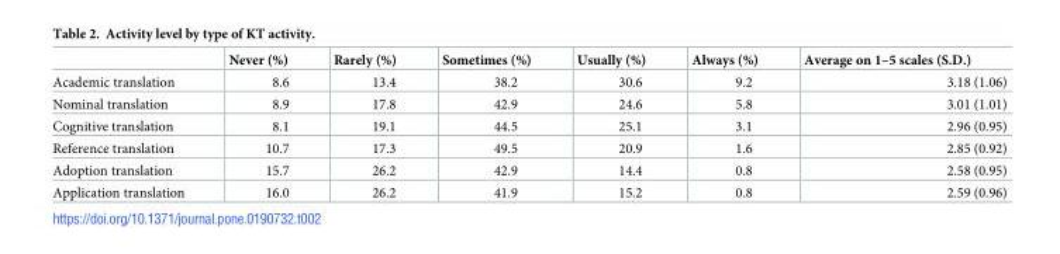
<table><thead><tr><td></td><td>Never (%)</td><td>Rarely (%)</td><td>Sometimes (%)</td><td>Usually (%)</td><td>Always (%)</td><td>Average on 1–5 scales (S.D.)</td></tr></thead><tbody><tr><td>Academic translation</td><td>8.6</td><td>13.4</td><td>38.2</td><td>30.6</td><td>9.2</td><td>3.18 (1.06)</td></tr><tr><td>Nominal translation</td><td>8.9</td><td>17.8</td><td>42.9</td><td>24.6</td><td>5.8</td><td>3.01 (1.01)</td></tr><tr><td>Cognitive translation</td><td>8.1</td><td>19.1</td><td>44.5</td><td>25.1</td><td>3.1</td><td>2.96 (0.95)</td></tr><tr><td>Reference translation</td><td>10.7</td><td>17.3</td><td>49.5</td><td>20.9</td><td>1.6</td><td>2.85 (0.92)</td></tr><tr><td>Adoption translation</td><td>15.7</td><td>26.2</td><td>42.9</td><td>14.4</td><td>0.8</td><td>2.58 (0.95)</td></tr><tr><td>Application translation</td><td>16.0</td><td>26.2</td><td>41.9</td><td>15.2</td><td>0.8</td><td>2.59 (0.96)</td></tr></tbody></table>